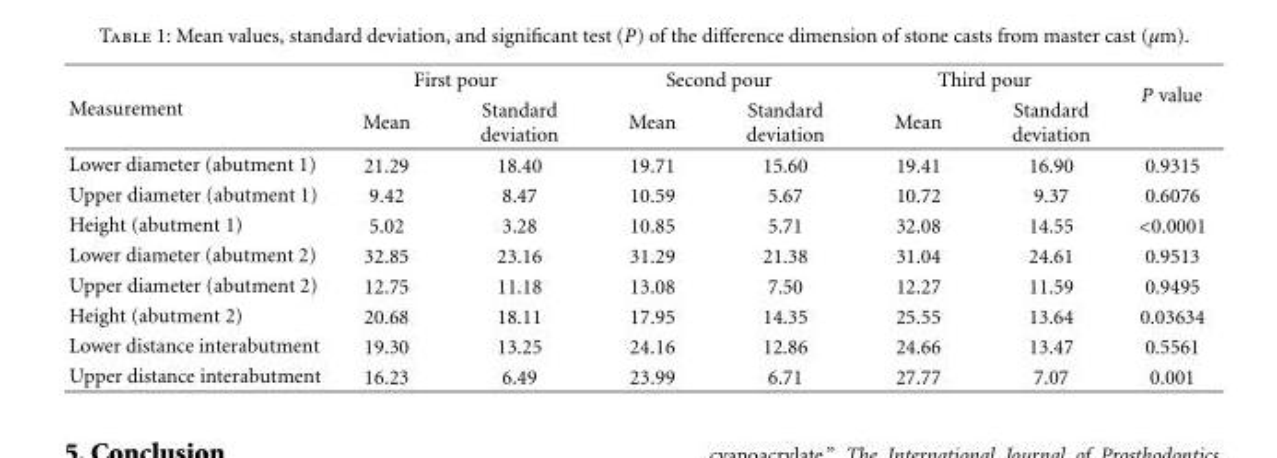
<table><thead><tr><td rowspan="2">Measurement</td><td colspan="2">First pour</td><td colspan="2">Second pour</td><td colspan="2">Third pour</td><td rowspan="2">P value</td></tr><tr><td>Mean</td><td>Standard deviation</td><td>Mean</td><td>Standard deviation</td><td>Mean</td><td>Standard deviation</td></tr></thead><tbody><tr><td>Lower diameter (abutment 1)</td><td>21.29</td><td>18.40</td><td>19.71</td><td>15.60</td><td>19.41</td><td>16.90</td><td>0.9315</td></tr><tr><td>Upper diameter (abutment 1)</td><td>9.42</td><td>8.47</td><td>10.59</td><td>5.67</td><td>10.72</td><td>9.37</td><td>0.6076</td></tr><tr><td>Height (abutment 1)</td><td>5.02</td><td>3.28</td><td>10.85</td><td>5.71</td><td>32.08</td><td>14.55</td><td>&lt;0.0001</td></tr><tr><td>Lower diameter (abutment 2)</td><td>32.85</td><td>23.16</td><td>31.29</td><td>21.38</td><td>31.04</td><td>24.61</td><td>0.9513</td></tr><tr><td>Upper diameter (abutment 2)</td><td>12.75</td><td>11.18</td><td>13.08</td><td>7.50</td><td>12.27</td><td>11.59</td><td>0.9495</td></tr><tr><td>Height (abutment 2)</td><td>20.68</td><td>18.11</td><td>17.95</td><td>14.35</td><td>25.55</td><td>13.64</td><td>0.03634</td></tr><tr><td>Lower distance interabutment</td><td>19.30</td><td>13.25</td><td>24.16</td><td>12.86</td><td>24.66</td><td>13.47</td><td>0.5561</td></tr><tr><td>Upper distance interabutment</td><td>16.23</td><td>6.49</td><td>23.99</td><td>6.71</td><td>27.77</td><td>7.07</td><td>0.001</td></tr></tbody></table>